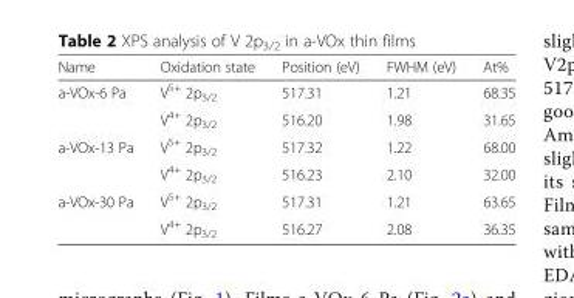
<table><thead><tr><td>Name</td><td>Oxidation state</td><td>Position (eV)</td><td>FWHM (eV)</td><td>At%</td></tr></thead><tbody><tr><td rowspan="2">a-VOx-6 Pa</td><td>V<sup>5+</sup> 2p<sub>3/2</sub></td><td>517.31</td><td>1.21</td><td>68.35</td></tr><tr><td>V<sup>4+</sup> 2p<sub>3/2</sub></td><td>516.20</td><td>1.98</td><td>31.65</td></tr><tr><td rowspan="2">a-VOx-13 Pa</td><td>V<sup>5+</sup> 2p<sub>3/2</sub></td><td>517.32</td><td>1.22</td><td>68.00</td></tr><tr><td>V<sup>4+</sup> 2p<sub>3/2</sub></td><td>516.23</td><td>2.10</td><td>32.00</td></tr><tr><td rowspan="2">a-VOx-30 Pa</td><td>V<sup>5+</sup> 2p<sub>3/2</sub></td><td>517.31</td><td>1.21</td><td>63.65</td></tr><tr><td>V<sup>4+</sup> 2p<sub>3/2</sub></td><td>516.27</td><td>2.08</td><td>36.35</td></tr></tbody></table>